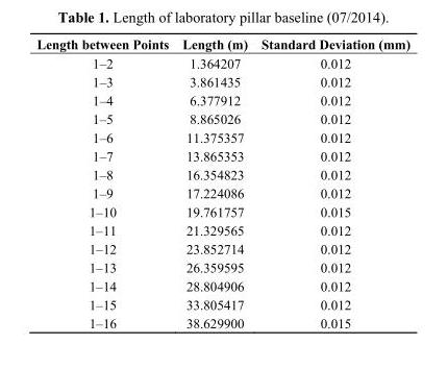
<table><thead><tr><td>Length between Points</td><td>Length (m)</td><td>Standard Deviation (mm)</td></tr></thead><tbody><tr><td>1–2</td><td>1.364207</td><td>0.012</td></tr><tr><td>1–3</td><td>3.861435</td><td>0.012</td></tr><tr><td>1–4</td><td>6.377912</td><td>0.012</td></tr><tr><td>1–5</td><td>8.865026</td><td>0.012</td></tr><tr><td>1–6</td><td>11.375357</td><td>0.012</td></tr><tr><td>1–7</td><td>13.865353</td><td>0.012</td></tr><tr><td>1–8</td><td>16.354823</td><td>0.012</td></tr><tr><td>1–9</td><td>17.224086</td><td>0.012</td></tr><tr><td>1–10</td><td>19.761757</td><td>0.015</td></tr><tr><td>1–11</td><td>21.329565</td><td>0.012</td></tr><tr><td>1–12</td><td>23.852714</td><td>0.012</td></tr><tr><td>1–13</td><td>26.359595</td><td>0.012</td></tr><tr><td>1–14</td><td>28.804906</td><td>0.012</td></tr><tr><td>1–15</td><td>33.805417</td><td>0.012</td></tr><tr><td>1–16</td><td>38.629900</td><td>0.015</td></tr></tbody></table>